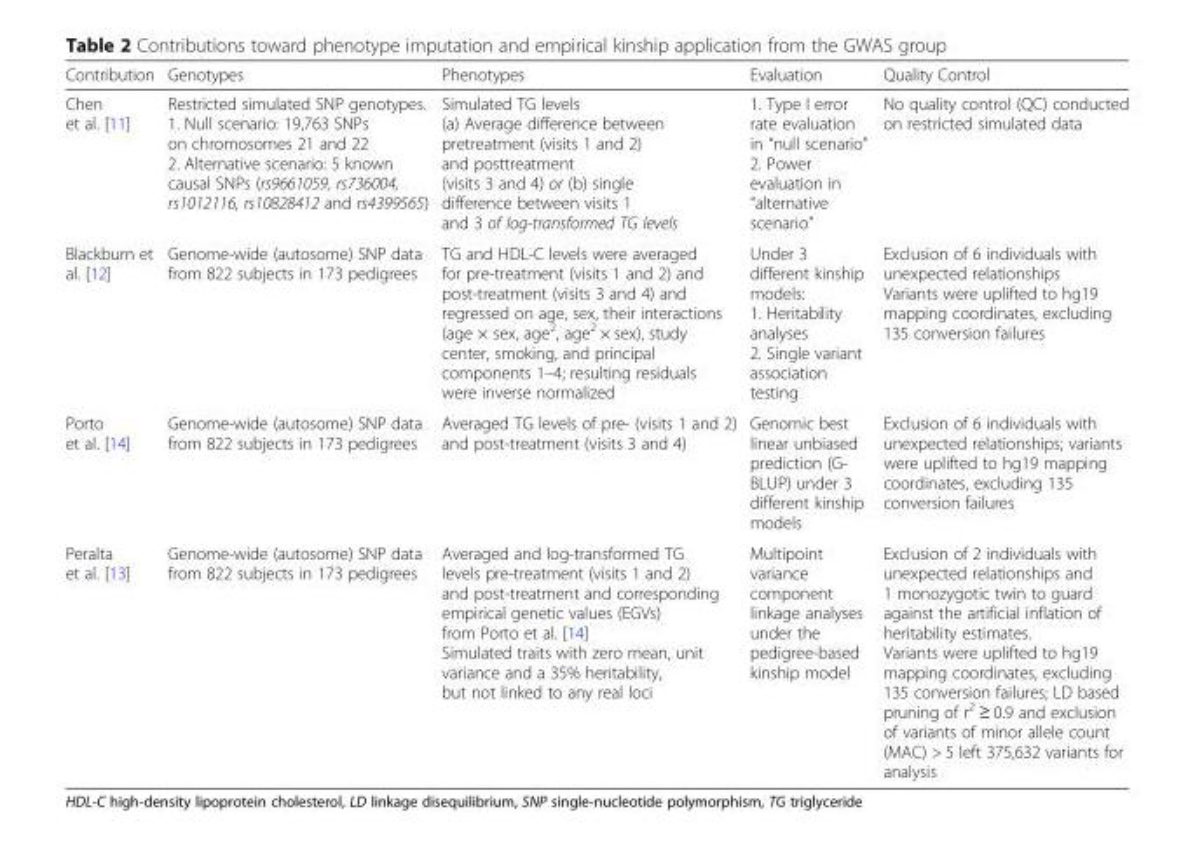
<table><thead><tr><td>Contribution</td><td>Genotypes</td><td>Phenotypes</td><td>Evaluation</td><td>Quality Control</td></tr></thead><tbody><tr><td>Chen et al. [11]</td><td>Restricted simulated SNP genotypes. 1. Null scenario: 19,763 SNPs on chromosomes 21 and 22 2. Alternative scenario: 5 known causal SNPs (rs9661059, rs736004, rs1012116, rs10828412 and rs4399565)</td><td>Simulated TG levels (a) Average difference between pretreatment (visits 1 and 2) and posttreatment (visits 3 and 4) or (b) single difference between visits 1 and 3 of log-transformed TG levels</td><td>1. Type I error rate evaluation in “null scenario” 2. Power evaluation in “alternative scenario”</td><td>No quality control (QC) conducted on restricted simulated data</td></tr><tr><td>Blackburn et al. [12]</td><td>Genome-wide (autosome) SNP data from 822 subjects in 173 pedigrees</td><td>TG and HDL-C levels were averaged for pre-treatment (visits 1 and 2) and post-treatment (visits 3 and 4) and regressed on age, sex, their interactions (age × sex, age<sup>2</sup>, age<sup>2</sup> × sex), study center, smoking, and principal components 1–4; resulting residuals were inverse normalized</td><td>Under 3 different kinship models: 1. Heritability analyses 2. Single variant association testing</td><td>Exclusion of 6 individuals with unexpected relationships Variants were uplifted to hg19 mapping coordinates, excluding 135 conversion failures</td></tr><tr><td>Porto et al. [14]</td><td>Genome-wide (autosome) SNP data from 822 subjects in 173 pedigrees</td><td>Averaged TG levels of pre- (visits 1 and 2) and post-treatment (visits 3 and 4)</td><td>Genomic best linear unbiased prediction (G- BLUP) under 3 different kinship models</td><td>Exclusion of 6 individuals with unexpected relationships; variants were uplifted to hg19 mapping coordinates, excluding 135 conversion failures</td></tr><tr><td>Peralta et al. [13]</td><td>Genome-wide (autosome) SNP data from 822 subjects in 173 pedigrees</td><td>Averaged and log-transformed TG levels pre-treatment (visits 1 and 2) and post-treatment and corresponding empirical genetic values (EGVs) from Porto et al. [14] Simulated traits with zero mean, unit variance and a 35% heritability, but not linked to any real loci</td><td>Multipoint variance component linkage analyses under the pedigree-based kinship model</td><td>Exclusion of 2 individuals with unexpected relationships and 1 monozygotic twin to guard against the artificial inflation of heritability estimates. Variants were uplifted to hg19 mapping coordinates, excluding 135 conversion failures; LD based pruning of r<sup>2</sup> ≥ 0.9 and exclusion of variants of minor allele count (MAC) &gt; 5 left 375,632 variants for analysis</td></tr></tbody></table>